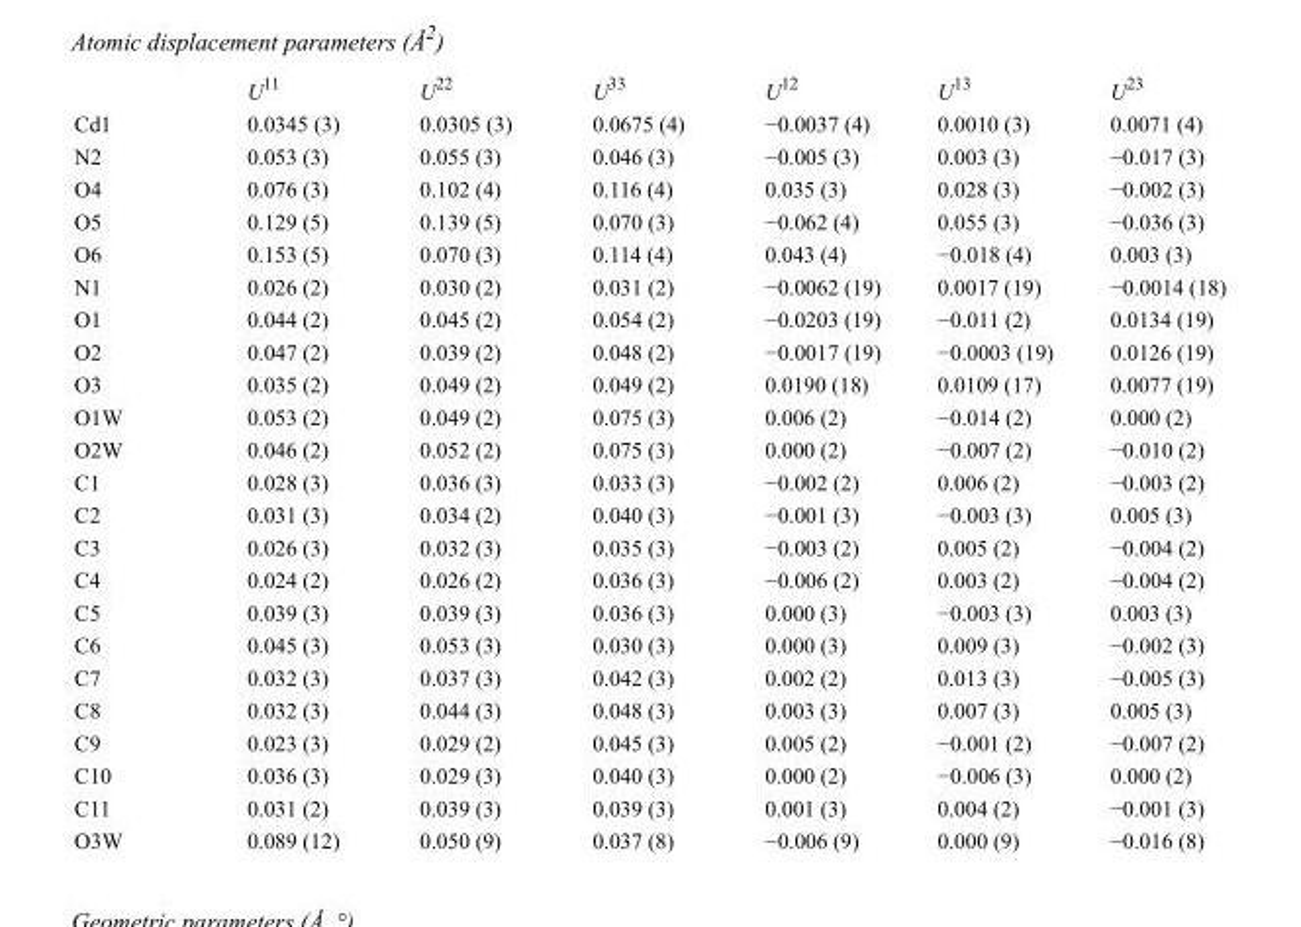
<table><thead><tr><td></td><td>U<sup>11</sup></td><td>U<sup>22</sup></td><td>U<sup>33</sup></td><td>U<sup>12</sup></td><td>U<sup>13</sup></td><td>U<sup>23</sup></td></tr></thead><tbody><tr><td>Cd1</td><td>0.0345 (3)</td><td>0.0305 (3)</td><td>0.0675 (4)</td><td>−0.0037 (4)</td><td>0.0010 (3)</td><td>0.0071 (4)</td></tr><tr><td>N2</td><td>0.053 (3)</td><td>0.055 (3)</td><td>0.046 (3)</td><td>−0.005 (3)</td><td>0.003 (3)</td><td>−0.017 (3)</td></tr><tr><td>O4</td><td>0.076 (3)</td><td>0.102 (4)</td><td>0.116 (4)</td><td>0.035 (3)</td><td>0.028 (3)</td><td>−0.002 (3)</td></tr><tr><td>O5</td><td>0.129 (5)</td><td>0.139 (5)</td><td>0.070 (3)</td><td>−0.062 (4)</td><td>0.055 (3)</td><td>−0.036 (3)</td></tr><tr><td>O6</td><td>0.153 (5)</td><td>0.070 (3)</td><td>0.114 (4)</td><td>0.043 (4)</td><td>−0.018 (4)</td><td>0.003 (3)</td></tr><tr><td>N1</td><td>0.026 (2)</td><td>0.030 (2)</td><td>0.031 (2)</td><td>−0.0062 (19)</td><td>0.0017 (19)</td><td>−0.0014 (18)</td></tr><tr><td>O1</td><td>0.044 (2)</td><td>0.045 (2)</td><td>0.054 (2)</td><td>−0.0203 (19)</td><td>−0.011 (2)</td><td>0.0134 (19)</td></tr><tr><td>O2</td><td>0.047 (2)</td><td>0.039 (2)</td><td>0.048 (2)</td><td>−0.0017 (19)</td><td>−0.0003 (19)</td><td>0.0126 (19)</td></tr><tr><td>O3</td><td>0.035 (2)</td><td>0.049 (2)</td><td>0.049 (2)</td><td>0.0190 (18)</td><td>0.0109 (17)</td><td>0.0077 (19)</td></tr><tr><td>O1W</td><td>0.053 (2)</td><td>0.049 (2)</td><td>0.075 (3)</td><td>0.006 (2)</td><td>−0.014 (2)</td><td>0.000 (2)</td></tr><tr><td>O2W</td><td>0.046 (2)</td><td>0.052 (2)</td><td>0.075 (3)</td><td>0.000 (2)</td><td>−0.007 (2)</td><td>−0.010 (2)</td></tr><tr><td>C1</td><td>0.028 (3)</td><td>0.036 (3)</td><td>0.033 (3)</td><td>−0.002 (2)</td><td>0.006 (2)</td><td>−0.003 (2)</td></tr><tr><td>C2</td><td>0.031 (3)</td><td>0.034 (2)</td><td>0.040 (3)</td><td>−0.001 (3)</td><td>−0.003 (3)</td><td>0.005 (3)</td></tr><tr><td>C3</td><td>0.026 (3)</td><td>0.032 (3)</td><td>0.035 (3)</td><td>−0.003 (2)</td><td>0.005 (2)</td><td>−0.004 (2)</td></tr><tr><td>C4</td><td>0.024 (2)</td><td>0.026 (2)</td><td>0.036 (3)</td><td>−0.006 (2)</td><td>0.003 (2)</td><td>−0.004 (2)</td></tr><tr><td>C5</td><td>0.039 (3)</td><td>0.039 (3)</td><td>0.036 (3)</td><td>0.000 (3)</td><td>−0.003 (3)</td><td>0.003 (3)</td></tr><tr><td>C6</td><td>0.045 (3)</td><td>0.053 (3)</td><td>0.030 (3)</td><td>0.000 (3)</td><td>0.009 (3)</td><td>−0.002 (3)</td></tr><tr><td>C7</td><td>0.032 (3)</td><td>0.037 (3)</td><td>0.042 (3)</td><td>0.002 (2)</td><td>0.013 (3)</td><td>−0.005 (3)</td></tr><tr><td>C8</td><td>0.032 (3)</td><td>0.044 (3)</td><td>0.048 (3)</td><td>0.003 (3)</td><td>0.007 (3)</td><td>0.005 (3)</td></tr><tr><td>C9</td><td>0.023 (3)</td><td>0.029 (2)</td><td>0.045 (3)</td><td>0.005 (2)</td><td>−0.001 (2)</td><td>−0.007 (2)</td></tr><tr><td>C10</td><td>0.036 (3)</td><td>0.029 (3)</td><td>0.040 (3)</td><td>0.000 (2)</td><td>−0.006 (3)</td><td>0.000 (2)</td></tr><tr><td>C11</td><td>0.031 (2)</td><td>0.039 (3)</td><td>0.039 (3)</td><td>0.001 (3)</td><td>0.004 (2)</td><td>−0.001 (3)</td></tr><tr><td>O3W</td><td>0.089 (12)</td><td>0.050 (9)</td><td>0.037 (8)</td><td>−0.006 (9)</td><td>0.000 (9)</td><td>−0.016 (8)</td></tr></tbody></table>